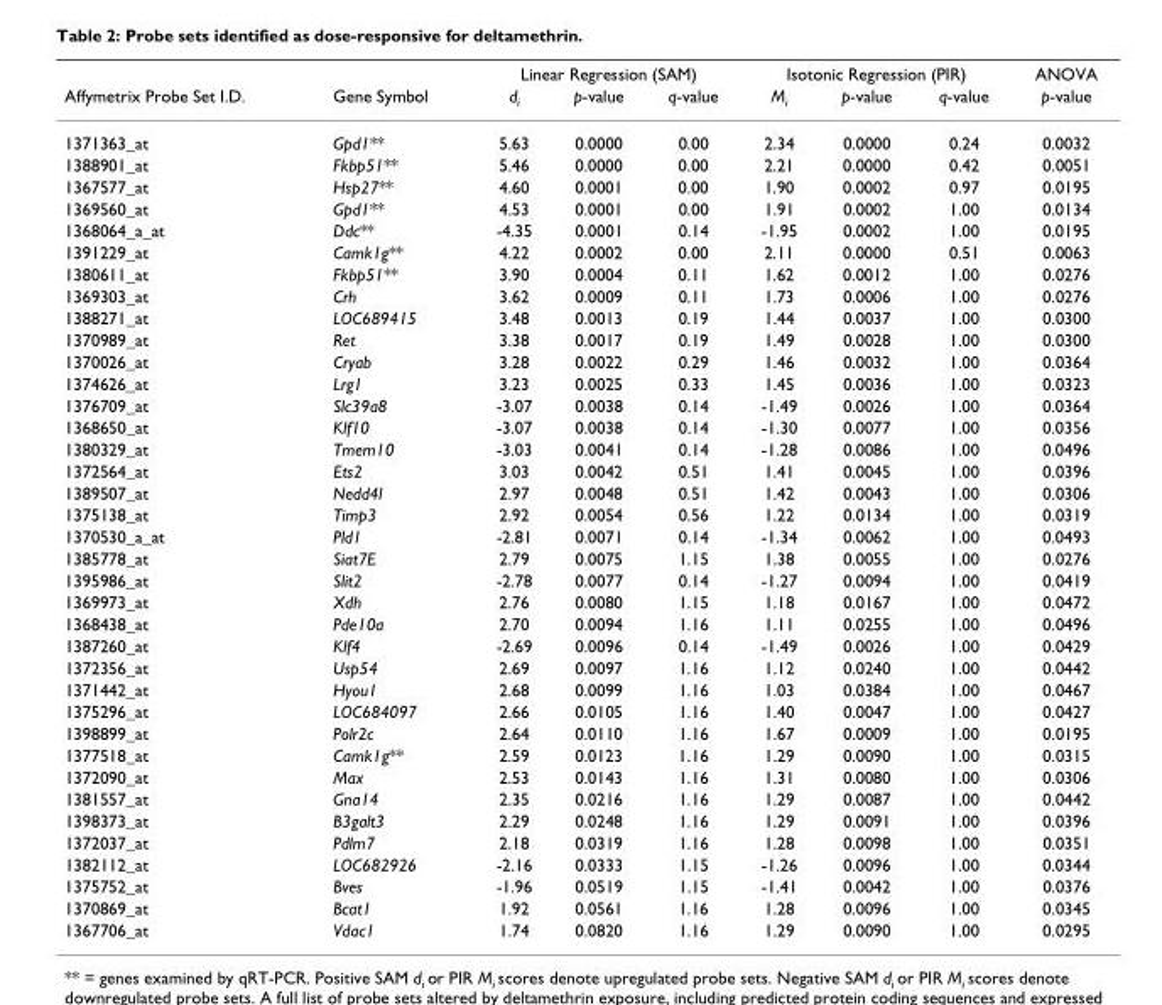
<table><thead><tr><td rowspan="2">Affymetrix Probe Set I.D.</td><td rowspan="2">Gene Symbol</td><td colspan="3">Linear Regression (SAM)</td><td colspan="3">Isotonic Regression (PIR)</td><td rowspan="2">ANOVA p-value</td></tr><tr><td>d<sub>i</sub></td><td>p-value</td><td>q-value</td><td>M<sub>i</sub></td><td>p-value</td><td>q-value</td></tr></thead><tbody><tr><td>1371363_at</td><td>Gpd1**</td><td>5.63</td><td>0.0000</td><td>0.00</td><td>2.34</td><td>0.0000</td><td>0.24</td><td>0.0032</td></tr><tr><td>1388901_at</td><td>Fkbp51**</td><td>5.46</td><td>0.0000</td><td>0.00</td><td>2.21</td><td>0.0000</td><td>0.42</td><td>0.0051</td></tr><tr><td>1367577_at</td><td>Hsp27**</td><td>4.60</td><td>0.0001</td><td>0.00</td><td>1.90</td><td>0.0002</td><td>0.97</td><td>0.0195</td></tr><tr><td>1369560_at</td><td>Gpd1**</td><td>4.53</td><td>0.0001</td><td>0.00</td><td>1.91</td><td>0.0002</td><td>1.00</td><td>0.0134</td></tr><tr><td>1368064_a_at</td><td>Ddc**</td><td>-4.35</td><td>0.0001</td><td>0.14</td><td>-1.95</td><td>0.0002</td><td>1.00</td><td>0.0195</td></tr><tr><td>1391229_at</td><td>Camk1g**</td><td>4.22</td><td>0.0002</td><td>0.00</td><td>2.11</td><td>0.0000</td><td>0.51</td><td>0.0063</td></tr><tr><td>1380611_at</td><td>Fkbp51**</td><td>3.90</td><td>0.0004</td><td>0.11</td><td>1.62</td><td>0.0012</td><td>1.00</td><td>0.0276</td></tr><tr><td>1369303_at</td><td>Crh</td><td>3.62</td><td>0.0009</td><td>0.11</td><td>1.73</td><td>0.0006</td><td>1.00</td><td>0.0276</td></tr><tr><td>1388271_at</td><td>LOC689415</td><td>3.48</td><td>0.0013</td><td>0.19</td><td>1.44</td><td>0.0037</td><td>1.00</td><td>0.0300</td></tr><tr><td>1370989_at</td><td>Ret</td><td>3.38</td><td>0.0017</td><td>0.19</td><td>1.49</td><td>0.0028</td><td>1.00</td><td>0.0300</td></tr><tr><td>1370026_at</td><td>Cryab</td><td>3.28</td><td>0.0022</td><td>0.29</td><td>1.46</td><td>0.0032</td><td>1.00</td><td>0.0364</td></tr><tr><td>1374626_at</td><td>Lrg1</td><td>3.23</td><td>0.0025</td><td>0.33</td><td>1.45</td><td>0.0036</td><td>1.00</td><td>0.0323</td></tr><tr><td>1376709_at</td><td>Slc39a8</td><td>-3.07</td><td>0.0038</td><td>0.14</td><td>-1.49</td><td>0.0026</td><td>1.00</td><td>0.0364</td></tr><tr><td>1368650_at</td><td>Klf10</td><td>-3.07</td><td>0.0038</td><td>0.14</td><td>-1.30</td><td>0.0077</td><td>1.00</td><td>0.0356</td></tr><tr><td>1380329_at</td><td>Tmem10</td><td>-3.03</td><td>0.0041</td><td>0.14</td><td>-1.28</td><td>0.0086</td><td>1.00</td><td>0.0496</td></tr><tr><td>1372564_at</td><td>Ets2</td><td>3.03</td><td>0.0042</td><td>0.51</td><td>1.41</td><td>0.0045</td><td>1.00</td><td>0.0396</td></tr><tr><td>1389507_at</td><td>Nedd4l</td><td>2.97</td><td>0.0048</td><td>0.51</td><td>1.42</td><td>0.0043</td><td>1.00</td><td>0.0306</td></tr><tr><td>1375138_at</td><td>Timp3</td><td>2.92</td><td>0.0054</td><td>0.56</td><td>1.22</td><td>0.0134</td><td>1.00</td><td>0.0319</td></tr><tr><td>1370530_a_at</td><td>Pld1</td><td>-2.81</td><td>0.0071</td><td>0.14</td><td>-1.34</td><td>0.0062</td><td>1.00</td><td>0.0493</td></tr><tr><td>1385778_at</td><td>Siat7E</td><td>2.79</td><td>0.0075</td><td>1.15</td><td>1.38</td><td>0.0055</td><td>1.00</td><td>0.0276</td></tr><tr><td>1395986_at</td><td>Slit2</td><td>-2.78</td><td>0.0077</td><td>0.14</td><td>-1.27</td><td>0.0094</td><td>1.00</td><td>0.0419</td></tr><tr><td>1369973_at</td><td>Xdh</td><td>2.76</td><td>0.0080</td><td>1.15</td><td>1.18</td><td>0.0167</td><td>1.00</td><td>0.0472</td></tr><tr><td>1368438_at</td><td>Pde10a</td><td>2.70</td><td>0.0094</td><td>1.16</td><td>1.11</td><td>0.0255</td><td>1.00</td><td>0.0496</td></tr><tr><td>1387260_at</td><td>Klf4</td><td>-2.69</td><td>0.0096</td><td>0.14</td><td>-1.49</td><td>0.0026</td><td>1.00</td><td>0.0429</td></tr><tr><td>1372356_at</td><td>Usp54</td><td>2.69</td><td>0.0097</td><td>1.16</td><td>1.12</td><td>0.0240</td><td>1.00</td><td>0.0442</td></tr><tr><td>1371442_at</td><td>Hyou1</td><td>2.68</td><td>0.0099</td><td>1.16</td><td>1.03</td><td>0.0384</td><td>1.00</td><td>0.0467</td></tr><tr><td>1375296_at</td><td>LOC684097</td><td>2.66</td><td>0.0105</td><td>1.16</td><td>1.40</td><td>0.0047</td><td>1.00</td><td>0.0427</td></tr><tr><td>1398899_at</td><td>Polr2c</td><td>2.64</td><td>0.0110</td><td>1.16</td><td>1.67</td><td>0.0009</td><td>1.00</td><td>0.0195</td></tr><tr><td>1377518_at</td><td>Camk1g**</td><td>2.59</td><td>0.0123</td><td>1.16</td><td>1.29</td><td>0.0090</td><td>1.00</td><td>0.0315</td></tr><tr><td>1372090_at</td><td>Max</td><td>2.53</td><td>0.0143</td><td>1.16</td><td>1.31</td><td>0.0080</td><td>1.00</td><td>0.0306</td></tr><tr><td>1381557_at</td><td>Gna14</td><td>2.35</td><td>0.0216</td><td>1.16</td><td>1.29</td><td>0.0087</td><td>1.00</td><td>0.0442</td></tr><tr><td>1398373_at</td><td>B3galt3</td><td>2.29</td><td>0.0248</td><td>1.16</td><td>1.29</td><td>0.0091</td><td>1.00</td><td>0.0396</td></tr><tr><td>1372037_at</td><td>Pdlm7</td><td>2.18</td><td>0.0319</td><td>1.16</td><td>1.28</td><td>0.0098</td><td>1.00</td><td>0.0351</td></tr><tr><td>1382112_at</td><td>LOC682926</td><td>-2.16</td><td>0.0333</td><td>1.15</td><td>-1.26</td><td>0.0096</td><td>1.00</td><td>0.0344</td></tr><tr><td>1375752_at</td><td>Bves</td><td>-1.96</td><td>0.0519</td><td>1.15</td><td>-1.41</td><td>0.0042</td><td>1.00</td><td>0.0376</td></tr><tr><td>1370869_at</td><td>Bcat1</td><td>1.92</td><td>0.0561</td><td>1.16</td><td>1.28</td><td>0.0096</td><td>1.00</td><td>0.0345</td></tr><tr><td>1367706_at</td><td>Vdac1</td><td>1.74</td><td>0.0820</td><td>1.16</td><td>1.29</td><td>0.0090</td><td>1.00</td><td>0.0295</td></tr></tbody></table>